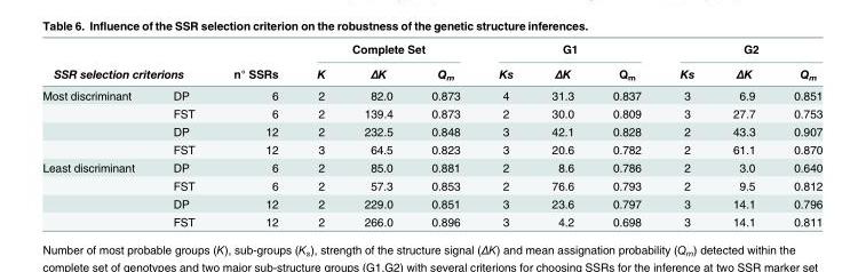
<table><thead><tr><td></td><td></td><td rowspan="2">n° SSRs</td><td colspan="3">Complete Set</td><td colspan="3">G1</td><td colspan="3">G2</td></tr><tr><td colspan="2">SSR selection criterions</td><td>K</td><td>ΔK</td><td>Q<sub>m</sub></td><td>Ks</td><td>ΔK</td><td>Q<sub>m</sub></td><td>Ks</td><td>ΔK</td><td>Q<sub>m</sub></td></tr></thead><tbody><tr><td rowspan="4">Most discriminant</td><td>DP</td><td>6</td><td>2</td><td>82.0</td><td>0.873</td><td>4</td><td>31.3</td><td>0.837</td><td>3</td><td>6.9</td><td>0.851</td></tr><tr><td>FST</td><td>6</td><td>2</td><td>139.4</td><td>0.873</td><td>2</td><td>30.0</td><td>0.809</td><td>3</td><td>27.7</td><td>0.753</td></tr><tr><td>DP</td><td>12</td><td>2</td><td>232.5</td><td>0.848</td><td>3</td><td>42.1</td><td>0.828</td><td>2</td><td>43.3</td><td>0.907</td></tr><tr><td>FST</td><td>12</td><td>3</td><td>64.5</td><td>0.823</td><td>3</td><td>20.6</td><td>0.782</td><td>2</td><td>61.1</td><td>0.870</td></tr><tr><td rowspan="4">Least discriminant</td><td>DP</td><td>6</td><td>2</td><td>85.0</td><td>0.881</td><td>2</td><td>8.6</td><td>0.786</td><td>2</td><td>3.0</td><td>0.640</td></tr><tr><td>FST</td><td>6</td><td>2</td><td>57.3</td><td>0.853</td><td>2</td><td>76.6</td><td>0.793</td><td>2</td><td>9.5</td><td>0.812</td></tr><tr><td>DP</td><td>12</td><td>2</td><td>229.0</td><td>0.851</td><td>3</td><td>23.6</td><td>0.797</td><td>3</td><td>14.1</td><td>0.796</td></tr><tr><td>FST</td><td>12</td><td>2</td><td>266.0</td><td>0.896</td><td>3</td><td>4.2</td><td>0.698</td><td>3</td><td>14.1</td><td>0.811</td></tr></tbody></table>